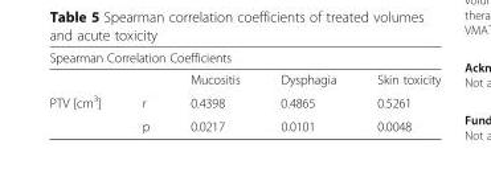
<table><thead><tr><td colspan="5">Spearman Correlation Coefficients</td></tr><tr><td colspan="2"></td><td rowspan="2">Mucositis 0.4398</td><td rowspan="2">Dysphagia 0.4865</td><td rowspan="2">Skin toxicity 0.5261</td></tr><tr><td>PTV [cm<sup>3</sup>]</td><td>r</td></tr></thead><tbody><tr><td></td><td>p</td><td>0.0217</td><td>0.0101</td><td>0.0048</td></tr></tbody></table>